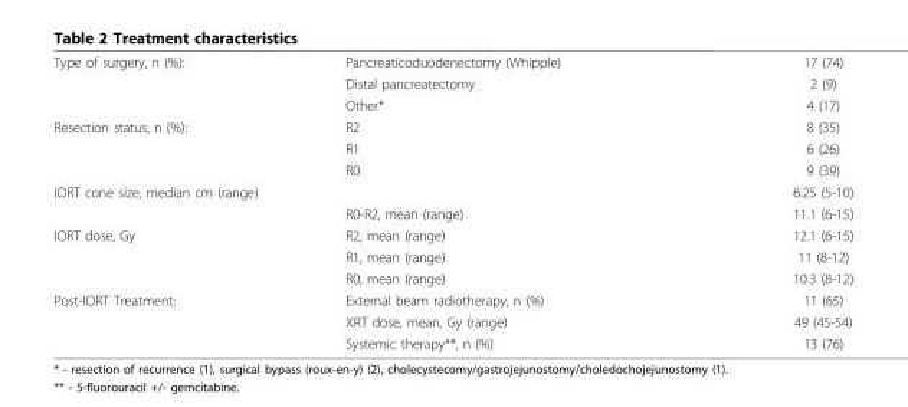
<table><tbody><tr><td rowspan="3">Type of surgery, n (%):</td><td>Pancreaticoduodenectomy (Whipple)</td><td>17 (74)</td></tr><tr><td>Distal pancreatectomy</td><td>2 (9)</td></tr><tr><td>Other*</td><td>4 (17)</td></tr><tr><td rowspan="3">Resection status, n (%):</td><td>R2</td><td>8 (35)</td></tr><tr><td>R1</td><td>6 (26)</td></tr><tr><td>R0</td><td>9 (39)</td></tr><tr><td colspan="2">IORT cone size, median cm (range)</td><td>6.25 (5-10)</td></tr><tr><td></td><td>R0-R2, mean (range)</td><td>11.1 (6-15)</td></tr><tr><td rowspan="3">IORT dose, Gy</td><td>R2, mean (range)</td><td>12.1 (6-15)</td></tr><tr><td>R1, mean (range)</td><td>11 (8-12)</td></tr><tr><td>R0, mean (range)</td><td>10.3 (8-12)</td></tr><tr><td rowspan="3">Post-IORT Treatment:</td><td>External beam radiotherapy, n (%)</td><td>11 (65)</td></tr><tr><td>XRT dose, mean, Gy (range)</td><td>49 (45-54)</td></tr><tr><td>Systemic therapy**, n (%)</td><td>13 (76)</td></tr></tbody></table>